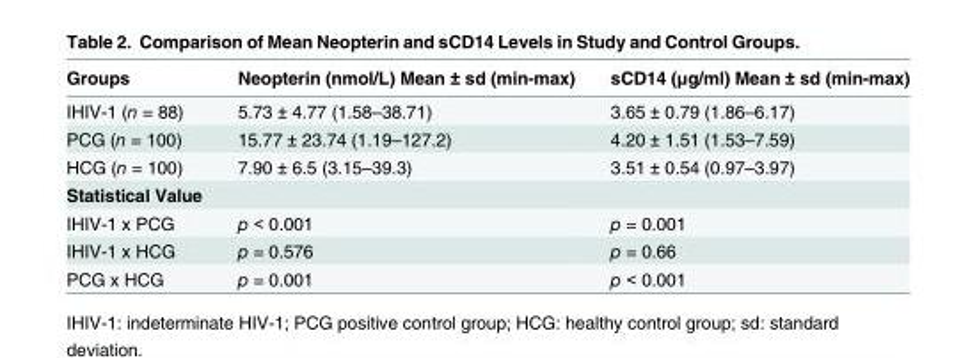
<table><thead><tr><td>Groups</td><td>Neopterin (nmol/L) Mean ± sd (min-max)</td><td>sCD14 (μg/ml) Mean ± sd (min-max)</td></tr></thead><tbody><tr><td>IHIV-1 (n = 88)</td><td>5.73 ± 4.77 (1.58–38.71)</td><td>3.65 ± 0.79 (1.86–6.17)</td></tr><tr><td>PCG (n = 100)</td><td>15.77 ± 23.74 (1.19–127.2)</td><td>4.20 ± 1.51 (1.53–7.59)</td></tr><tr><td>HCG (n = 100)</td><td>7.90 ± 6.5 (3.15–39.3)</td><td>3.51 ± 0.54 (0.97–3.97)</td></tr><tr><td colspan="3">Statistical Value</td></tr><tr><td>IHIV-1 x PCG</td><td>p &lt; 0.001</td><td>p = 0.001</td></tr><tr><td>IHIV-1 x HCG</td><td>p = 0.576</td><td>p = 0.66</td></tr><tr><td>PCG x HCG</td><td>p = 0.001</td><td>p &lt; 0.001</td></tr></tbody></table>